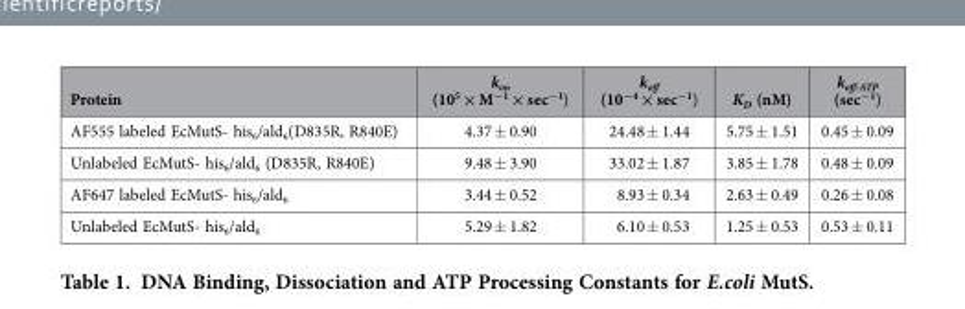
<table><thead><tr><td>Protein</td><td>k<sub>on</sub> (10<sup>5</sup> × M<sup>−1</sup> × sec<sup>−1</sup>)</td><td>k<sub>off</sub> (10<sup>−4</sup> × sec<sup>−1</sup>)</td><td>K<sub>D</sub> (nM)</td><td>k<sub>off·ATP</sub> (sec<sup>−1</sup>)</td></tr></thead><tbody><tr><td>AF555 labeled EcMutS- his<sub>6</sub>/ald<sub>6</sub>(D835R, R840E)</td><td>4.37 ± 0.90</td><td>24.48 ± 1.44</td><td>5.75 ± 1.51</td><td>0.45 ± 0.09</td></tr><tr><td>Unlabeled EcMutS- his<sub>6</sub>/ald<sub>6</sub> (D835R, R840E)</td><td>9.48 ± 3.90</td><td>33.02 ± 1.87</td><td>3.85 ± 1.78</td><td>0.48 ± 0.09</td></tr><tr><td>AF647 labeled EcMutS- his<sub>6</sub>/ald<sub>6</sub></td><td>3.44 ± 0.52</td><td>8.93 ± 0.34</td><td>2.63 ± 0.49</td><td>0.26 ± 0.08</td></tr><tr><td>Unlabeled EcMutS- his<sub>6</sub>/ald<sub>6</sub></td><td>5.29 ± 1.82</td><td>6.10 ± 0.53</td><td>1.25 ± 0.53</td><td>0.53 ± 0.11</td></tr></tbody></table>